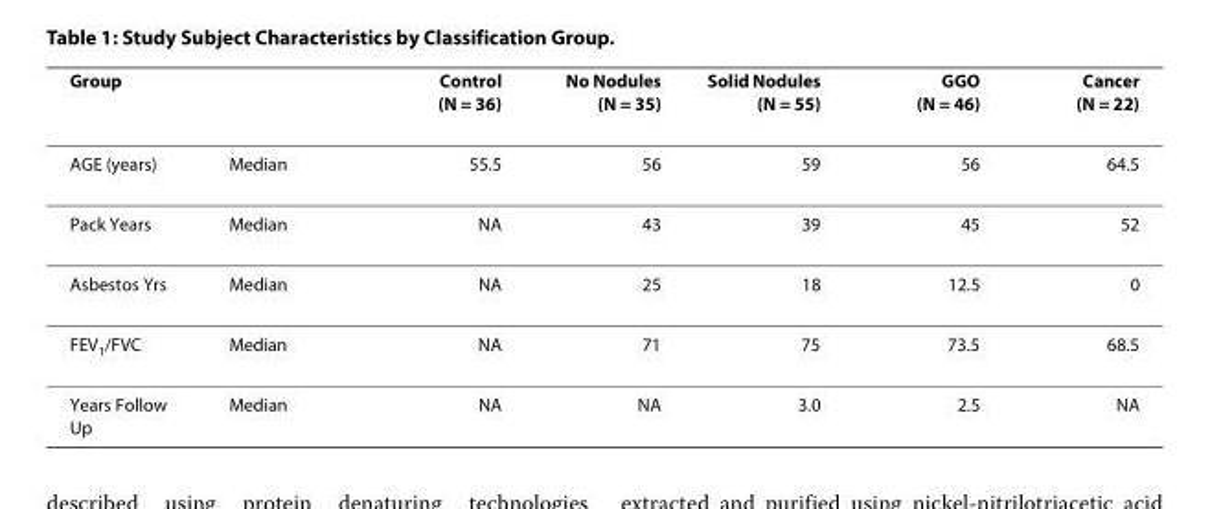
<table><thead><tr><td>Group</td><td></td><td>Control (N = 36)</td><td>No Nodules (N = 35)</td><td>Solid Nodules (N = 55)</td><td>GGO (N = 46)</td><td>Cancer (N = 22)</td></tr></thead><tbody><tr><td>AGE (years)</td><td>Median</td><td>55.5</td><td>56</td><td>59</td><td>56</td><td>64.5</td></tr><tr><td>Pack Years</td><td>Median</td><td>NA</td><td>43</td><td>39</td><td>45</td><td>52</td></tr><tr><td>Asbestos Yrs</td><td>Median</td><td>NA</td><td>25</td><td>18</td><td>12.5</td><td>0</td></tr><tr><td>FEV<sub>1</sub>/FVC</td><td>Median</td><td>NA</td><td>71</td><td>75</td><td>73.5</td><td>68.5</td></tr><tr><td>Years Follow Up</td><td>Median</td><td>NA</td><td>NA</td><td>3.0</td><td>2.5</td><td>NA</td></tr></tbody></table>